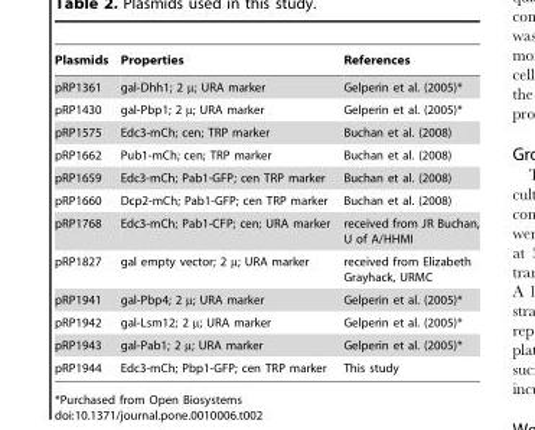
<table><thead><tr><td>Plasmids</td><td>Properties</td><td>References</td></tr></thead><tbody><tr><td>pRP1361</td><td>gal-Dhh1; 2 µ; URA marker</td><td>Gelperin et al. (2005)*</td></tr><tr><td>pRP1430</td><td>gal-Pbp1; 2 µ; URA marker</td><td>Gelperin et al. (2005)*</td></tr><tr><td>pRP1575</td><td>Edc3-mCh; cen; TRP marker</td><td>Buchan et al. (2008)</td></tr><tr><td>pRP1662</td><td>Pub1-mCh; cen; TRP marker</td><td>Buchan et al. (2008)</td></tr><tr><td>pRP1659</td><td>Edc3-mCh; Pab1-GFP; cen TRP marker</td><td>Buchan et al. (2008)</td></tr><tr><td>pRP1660</td><td>Dcp2-mCh; Pab1-GFP; cen TRP marker</td><td>Buchan et al. (2008)</td></tr><tr><td>pRP1768</td><td>Edc3-mCh; Pab1-CFP; cen; URA marker</td><td>received from JR Buchan, U of A/HHMI</td></tr><tr><td>pRP1827</td><td>gal empty vector; 2 µ; URA marker</td><td>received from Elizabeth Grayhack, URMC</td></tr><tr><td>pRP1941</td><td>gal-Pbp4; 2 µ; URA marker</td><td>Gelperin et al. (2005)*</td></tr><tr><td>pRP1942</td><td>gal-Lsm12; 2 µ; URA marker</td><td>Gelperin et al. (2005)*</td></tr><tr><td>pRP1943</td><td>gal-Pab1; 2 µ; URA marker</td><td>Gelperin et al. (2005)*</td></tr><tr><td>pRP1944</td><td>Edc3-mCh; Pbp1-GFP; cen TRP marker</td><td>This study</td></tr></tbody></table>